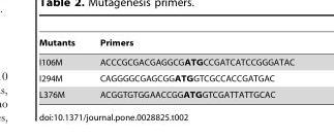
<table><thead><tr><td>Mutants</td><td>Primers</td></tr></thead><tbody><tr><td>I106M</td><td>ACCCGCGACGAGGCGATGCCGATCATCCGGGATAC</td></tr><tr><td>I294M</td><td>CAGGGGCGAGCGGATGGTCGCCACCGATGAC</td></tr><tr><td>L376M</td><td>ACGGTGTGGAACCGGATGGTCGATTATTGCAC</td></tr></tbody></table>